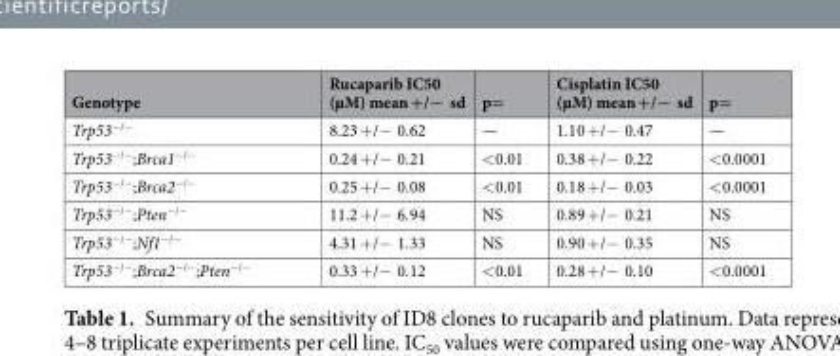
<table><thead><tr><td>Genotype</td><td>Rucaparib IC50 (µM) mean +/− sd</td><td>p=</td><td>Cisplatin IC50 (µM) mean +/− sd</td><td>p=</td></tr></thead><tbody><tr><td>Trp53<sup>−/−</sup></td><td>8.23 +/− 0.62</td><td>—</td><td>1.10 +/− 0.47</td><td>—</td></tr><tr><td>Trp53<sup>−/−</sup>;Brca1<sup>−/−</sup></td><td>0.24 +/− 0.21</td><td>&lt;0.01</td><td>0.38 +/− 0.22</td><td>&lt;0.0001</td></tr><tr><td>Trp53<sup>−/−</sup>;Brca2<sup>−/−</sup></td><td>0.25 +/− 0.08</td><td>&lt;0.01</td><td>0.18 +/− 0.03</td><td>&lt;0.0001</td></tr><tr><td>Trp53<sup>−/−</sup>;Pten<sup>−/−</sup></td><td>11.2 +/− 6.94</td><td>NS</td><td>0.89 +/− 0.21</td><td>NS</td></tr><tr><td>Trp53<sup>−/−</sup>;Nf1<sup>−/−</sup></td><td>4.31 +/− 1.33</td><td>NS</td><td>0.90 +/− 0.35</td><td>NS</td></tr><tr><td>Trp53<sup>−/−</sup>;Brca2<sup>−/−</sup>;Pten<sup>−/−</sup></td><td>0.33 +/− 0.12</td><td>&lt;0.01</td><td>0.28 +/− 0.10</td><td>&lt;0.0001</td></tr></tbody></table>